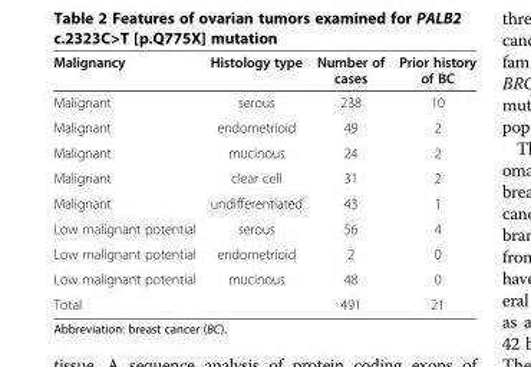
<table><thead><tr><td>Malignancy</td><td>Histology type</td><td>Number of cases</td><td>Prior history of BC</td></tr></thead><tbody><tr><td>Malignant</td><td>serous</td><td>238</td><td>10</td></tr><tr><td>Malignant</td><td>endometrioid</td><td>49</td><td>2</td></tr><tr><td>Malignant</td><td>mucinous</td><td>24</td><td>2</td></tr><tr><td>Malignant</td><td>clear cell</td><td>31</td><td>2</td></tr><tr><td>Malignant</td><td>undifferentiated</td><td>43</td><td>1</td></tr><tr><td>Low malignant potential</td><td>serous</td><td>56</td><td>4</td></tr><tr><td>Low malignant potential</td><td>endometrioid</td><td>2</td><td>0</td></tr><tr><td>Low malignant potential</td><td>mucinous</td><td>48</td><td>0</td></tr><tr><td>Total</td><td></td><td>491</td><td>21</td></tr></tbody></table>